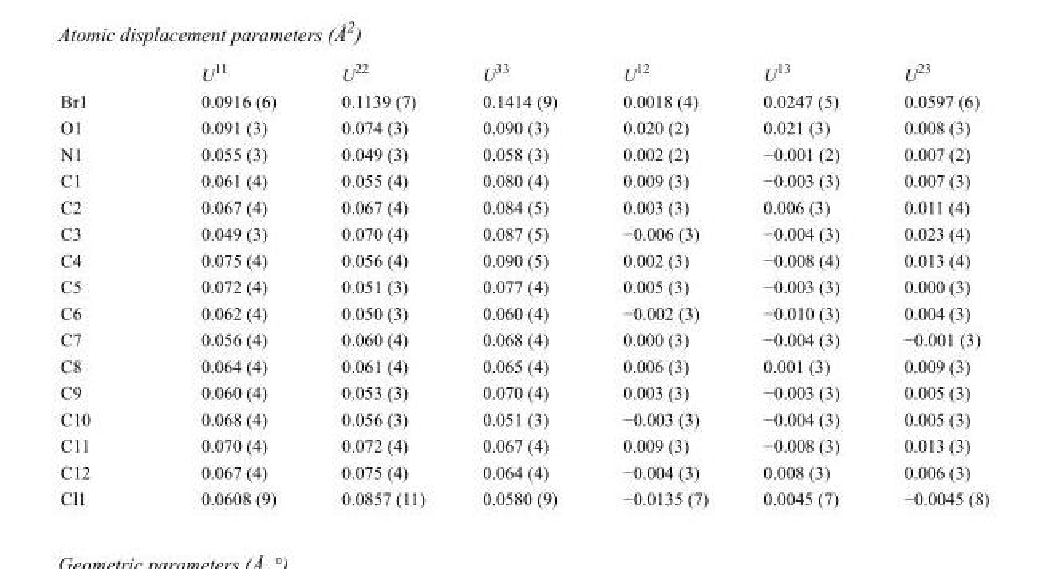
<table><thead><tr><td></td><td>U<sup>11</sup></td><td>U<sup>22</sup></td><td>U<sup>33</sup></td><td>U<sup>12</sup></td><td>U<sup>13</sup></td><td>U<sup>23</sup></td></tr></thead><tbody><tr><td>Br1</td><td>0.0916 (6)</td><td>0.1139 (7)</td><td>0.1414 (9)</td><td>0.0018 (4)</td><td>0.0247 (5)</td><td>0.0597 (6)</td></tr><tr><td>O1</td><td>0.091 (3)</td><td>0.074 (3)</td><td>0.090 (3)</td><td>0.020 (2)</td><td>0.021 (3)</td><td>0.008 (3)</td></tr><tr><td>N1</td><td>0.055 (3)</td><td>0.049 (3)</td><td>0.058 (3)</td><td>0.002 (2)</td><td>−0.001 (2)</td><td>0.007 (2)</td></tr><tr><td>C1</td><td>0.061 (4)</td><td>0.055 (4)</td><td>0.080 (4)</td><td>0.009 (3)</td><td>−0.003 (3)</td><td>0.007 (3)</td></tr><tr><td>C2</td><td>0.067 (4)</td><td>0.067 (4)</td><td>0.084 (5)</td><td>0.003 (3)</td><td>0.006 (3)</td><td>0.011 (4)</td></tr><tr><td>C3</td><td>0.049 (3)</td><td>0.070 (4)</td><td>0.087 (5)</td><td>−0.006 (3)</td><td>−0.004 (3)</td><td>0.023 (4)</td></tr><tr><td>C4</td><td>0.075 (4)</td><td>0.056 (4)</td><td>0.090 (5)</td><td>0.002 (3)</td><td>−0.008 (4)</td><td>0.013 (4)</td></tr><tr><td>C5</td><td>0.072 (4)</td><td>0.051 (3)</td><td>0.077 (4)</td><td>0.005 (3)</td><td>−0.003 (3)</td><td>0.000 (3)</td></tr><tr><td>C6</td><td>0.062 (4)</td><td>0.050 (3)</td><td>0.060 (4)</td><td>−0.002 (3)</td><td>−0.010 (3)</td><td>0.004 (3)</td></tr><tr><td>C7</td><td>0.056 (4)</td><td>0.060 (4)</td><td>0.068 (4)</td><td>0.000 (3)</td><td>−0.004 (3)</td><td>−0.001 (3)</td></tr><tr><td>C8</td><td>0.064 (4)</td><td>0.061 (4)</td><td>0.065 (4)</td><td>0.006 (3)</td><td>0.001 (3)</td><td>0.009 (3)</td></tr><tr><td>C9</td><td>0.060 (4)</td><td>0.053 (3)</td><td>0.070 (4)</td><td>0.003 (3)</td><td>−0.003 (3)</td><td>0.005 (3)</td></tr><tr><td>C10</td><td>0.068 (4)</td><td>0.056 (3)</td><td>0.051 (3)</td><td>−0.003 (3)</td><td>−0.004 (3)</td><td>0.005 (3)</td></tr><tr><td>C11</td><td>0.070 (4)</td><td>0.072 (4)</td><td>0.067 (4)</td><td>0.009 (3)</td><td>−0.008 (3)</td><td>0.013 (3)</td></tr><tr><td>C12</td><td>0.067 (4)</td><td>0.075 (4)</td><td>0.064 (4)</td><td>−0.004 (3)</td><td>0.008 (3)</td><td>0.006 (3)</td></tr><tr><td>Cl1</td><td>0.0608 (9)</td><td>0.0857 (11)</td><td>0.0580 (9)</td><td>−0.0135 (7)</td><td>0.0045 (7)</td><td>−0.0045 (8)</td></tr></tbody></table>